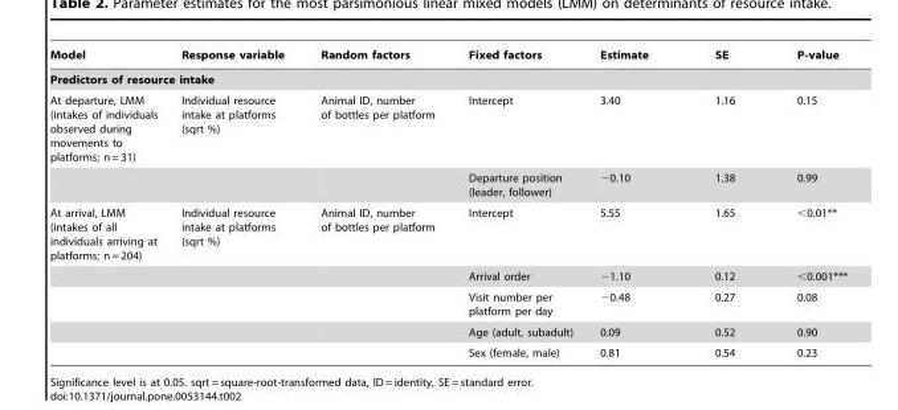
<table><thead><tr><td>Model</td><td>Response variable</td><td>Random factors</td><td>Fixed factors</td><td>Estimate</td><td>SE</td><td>P-value</td></tr></thead><tbody><tr><td colspan="7">Predictors of resource intake</td></tr><tr><td rowspan="2">At departure, LMM (intakes of individuals observed during movements to platforms; n = 31)</td><td>Individual resource intake at platforms (sqrt %)</td><td>Animal ID, number of bottles per platform</td><td>Intercept</td><td>3.40</td><td>1.16</td><td>0.15</td></tr><tr><td></td><td></td><td>Departure position (leader, follower)</td><td>−0.10</td><td>1.38</td><td>0.99</td></tr><tr><td rowspan="5">At arrival, LMM (intakes of all individuals arriving at platforms; n = 204)</td><td>Individual resource intake at platforms (sqrt %)</td><td>Animal ID, number of bottles per platform</td><td>Intercept</td><td>5.55</td><td>1.65</td><td>&lt;0.01**</td></tr><tr><td></td><td></td><td>Arrival order</td><td>−1.10</td><td>0.12</td><td>&lt;0.001***</td></tr><tr><td></td><td></td><td>Visit number per platform per day</td><td>−0.48</td><td>0.27</td><td>0.08</td></tr><tr><td></td><td></td><td>Age (adult, subadult)</td><td>0.09</td><td>0.52</td><td>0.90</td></tr><tr><td></td><td></td><td>Sex (female, male)</td><td>0.81</td><td>0.54</td><td>0.23</td></tr></tbody></table>